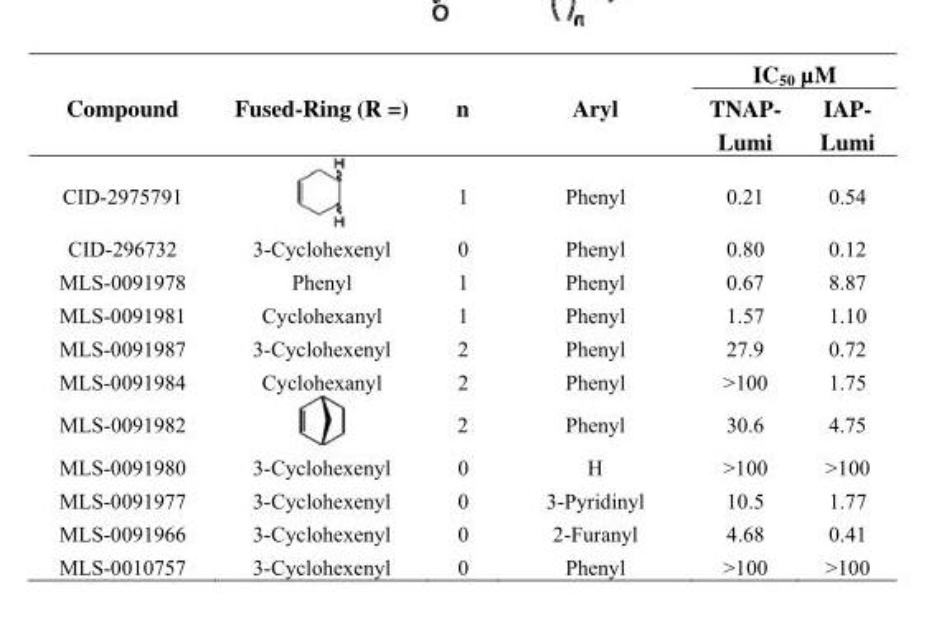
<table><thead><tr><td rowspan="2">Compound</td><td rowspan="2">Fused-Ring (R =)</td><td rowspan="2">n</td><td rowspan="2">Aryl</td><td colspan="2">IC<sub>50</sub> µM</td></tr><tr><td>TNAP- Lumi</td><td>IAP- Lumi</td></tr></thead><tbody><tr><td>CID-2975791</td><td></td><td>1</td><td>Phenyl</td><td>0.21</td><td>0.54</td></tr><tr><td>CID-296732</td><td>3-Cyclohexenyl</td><td>0</td><td>Phenyl</td><td>0.80</td><td>0.12</td></tr><tr><td>MLS-0091978</td><td>Phenyl</td><td>1</td><td>Phenyl</td><td>0.67</td><td>8.87</td></tr><tr><td>MLS-0091981</td><td>Cyclohexanyl</td><td>1</td><td>Phenyl</td><td>1.57</td><td>1.10</td></tr><tr><td>MLS-0091987</td><td>3-Cyclohexenyl</td><td>2</td><td>Phenyl</td><td>27.9</td><td>0.72</td></tr><tr><td>MLS-0091984</td><td>Cyclohexanyl</td><td>2</td><td>Phenyl</td><td>&gt;100</td><td>1.75</td></tr><tr><td>MLS-0091982</td><td></td><td>2</td><td>Phenyl</td><td>30.6</td><td>4.75</td></tr><tr><td>MLS-0091980</td><td>3-Cyclohexenyl</td><td>0</td><td>H</td><td>&gt;100</td><td>&gt;100</td></tr><tr><td>MLS-0091977</td><td>3-Cyclohexenyl</td><td>0</td><td>3-Pyridinyl</td><td>10.5</td><td>1.77</td></tr><tr><td>MLS-0091966</td><td>3-Cyclohexenyl</td><td>0</td><td>2-Furanyl</td><td>4.68</td><td>0.41</td></tr><tr><td>MLS-0010757</td><td>3-Cyclohexenyl</td><td>0</td><td>Phenyl</td><td>&gt;100</td><td>&gt;100</td></tr></tbody></table>